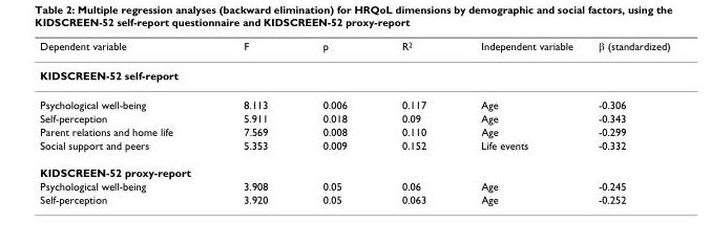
<table><thead><tr><td>Dependent variable</td><td>F</td><td>p</td><td>R<sup>2</sup></td><td>Independent variable</td><td>β (standardized)</td></tr></thead><tbody><tr><td colspan="6">KIDSCREEN-52 self-report</td></tr><tr><td>Psychological well-being</td><td>8.113</td><td>0.006</td><td>0.117</td><td>Age</td><td>-0.306</td></tr><tr><td>Self-perception</td><td>5.911</td><td>0.018</td><td>0.09</td><td>Age</td><td>-0.343</td></tr><tr><td>Parent relations and home life</td><td>7.569</td><td>0.008</td><td>0.110</td><td>Age</td><td>-0.299</td></tr><tr><td>Social support and peers</td><td>5.353</td><td>0.009</td><td>0.152</td><td>Life events</td><td>-0.332</td></tr><tr><td colspan="6">KIDSCREEN-52 proxy-report</td></tr><tr><td>Psychological well-being</td><td>3.908</td><td>0.05</td><td>0.06</td><td>Age</td><td>-0.245</td></tr><tr><td>Self-perception</td><td>3.920</td><td>0.05</td><td>0.063</td><td>Age</td><td>-0.252</td></tr></tbody></table>